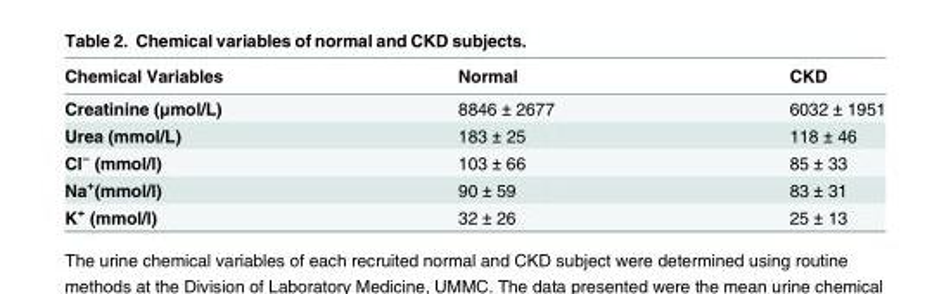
<table><thead><tr><td>Chemical Variables</td><td>Normal</td><td>CKD</td></tr></thead><tbody><tr><td>Creatinine (μmol/L)</td><td>8846 ± 2677</td><td>6032 ± 1951</td></tr><tr><td>Urea (mmol/L)</td><td>183 ± 25</td><td>118 ± 46</td></tr><tr><td>Cl<sup>−</sup> (mmol/l)</td><td>103 ± 66</td><td>85 ± 33</td></tr><tr><td>Na<sup>+</sup>(mmol/l)</td><td>90 ± 59</td><td>83 ± 31</td></tr><tr><td>K<sup>+</sup> (mmol/l)</td><td>32 ± 26</td><td>25 ± 13</td></tr></tbody></table>